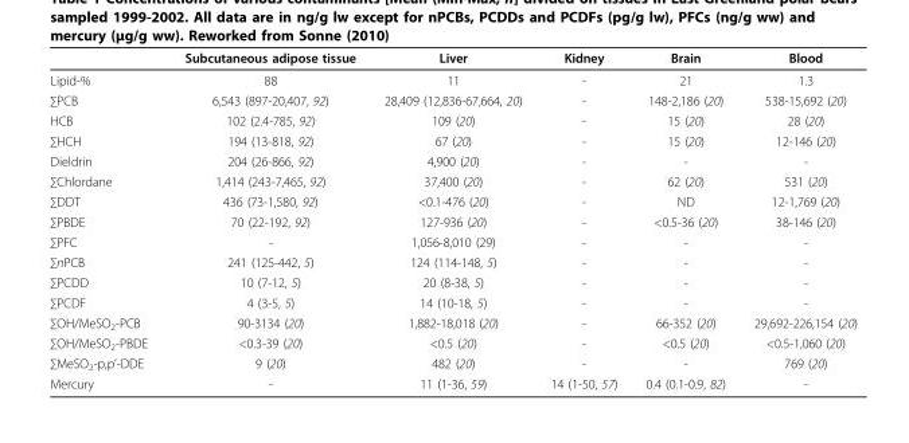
<table><thead><tr><td></td><td>Subcutaneous adipose tissue</td><td>Liver</td><td>Kidney</td><td>Brain</td><td>Blood</td></tr></thead><tbody><tr><td>Lipid-%</td><td>88</td><td>11</td><td>-</td><td>21</td><td>1.3</td></tr><tr><td>∑PCB</td><td>6,543 (897-20,407, 92)</td><td>28,409 (12,836-67,664, 20)</td><td>-</td><td>148-2,186 (20)</td><td>538-15,692 (20)</td></tr><tr><td>HCB</td><td>102 (2.4-785, 92)</td><td>109 (20)</td><td>-</td><td>15 (20)</td><td>28 (20)</td></tr><tr><td>∑HCH</td><td>194 (13-818, 92)</td><td>67 (20)</td><td>-</td><td>15 (20)</td><td>12-146 (20)</td></tr><tr><td>Dieldrin</td><td>204 (26-866, 92)</td><td>4,900 (20)</td><td>-</td><td>-</td><td>-</td></tr><tr><td>∑Chlordane</td><td>1,414 (243-7,465, 92)</td><td>37,400 (20)</td><td>-</td><td>62 (20)</td><td>531 (20)</td></tr><tr><td>∑DDT</td><td>436 (73-1,580, 92)</td><td>&lt;0.1-476 (20)</td><td>-</td><td>ND</td><td>12-1,769 (20)</td></tr><tr><td>∑PBDE</td><td>70 (22-192, 92)</td><td>127-936 (20)</td><td>-</td><td>&lt;0.5-36 (20)</td><td>38-146 (20)</td></tr><tr><td>∑PFC</td><td>-</td><td>1,056-8,010 (29)</td><td>-</td><td>-</td><td>-</td></tr><tr><td>∑nPCB</td><td>241 (125-442, 5)</td><td>124 (114-148, 5)</td><td>-</td><td>-</td><td>-</td></tr><tr><td>∑PCDD</td><td>10 (7-12, 5)</td><td>20 (8-38, 5)</td><td>-</td><td>-</td><td>-</td></tr><tr><td>∑PCDF</td><td>4 (3-5, 5)</td><td>14 (10-18, 5)</td><td>-</td><td>-</td><td>-</td></tr><tr><td>∑OH/MeSO<sub>2</sub>-PCB</td><td>90-3134 (20)</td><td>1,882-18,018 (20)</td><td>-</td><td>66-352 (20)</td><td>29,692-226,154 (20)</td></tr><tr><td>∑OH/MeSO<sub>2</sub>-PBDE</td><td>&lt;0.3-39 (20)</td><td>&lt;0.5 (20)</td><td>-</td><td>&lt;0.5 (20)</td><td>&lt;0.5-1,060 (20)</td></tr><tr><td>∑MeSO<sub>2</sub>-p,p’-DDE</td><td>9 (20)</td><td>482 (20)</td><td>-</td><td>-</td><td>769 (20)</td></tr><tr><td>Mercury</td><td>-</td><td>11 (1-36, 59)</td><td>14 (1-50, 57)</td><td>0.4 (0.1-0.9, 82)</td><td>-</td></tr></tbody></table>